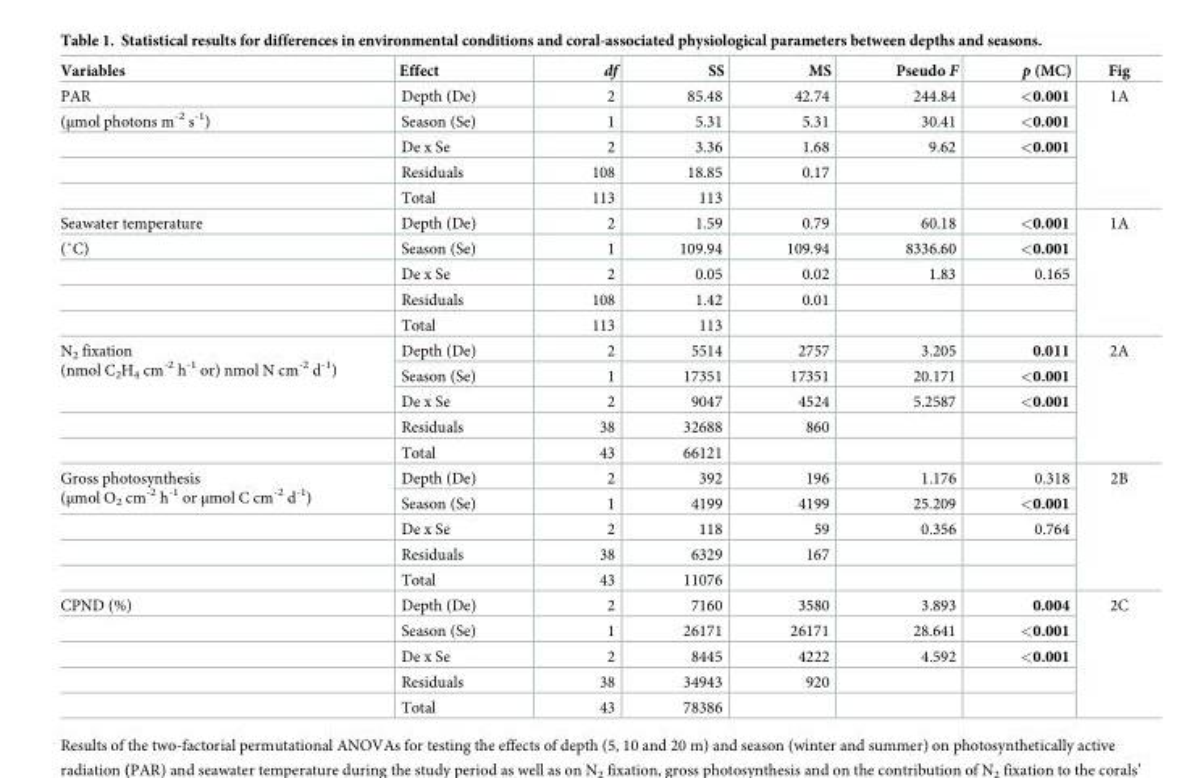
<table><thead><tr><td>Variables</td><td>Effect</td><td>df</td><td>SS</td><td>MS</td><td>Pseudo F</td><td>p (MC)</td><td>Fig</td></tr></thead><tbody><tr><td>PAR</td><td>Depth (De)</td><td>2</td><td>85.48</td><td>42.74</td><td>244.84</td><td>&lt;0.001</td><td rowspan="5">1A</td></tr><tr><td rowspan="4">(μmol photons m<sup>-2</sup> s<sup>-1</sup>)</td><td>Season (Se)</td><td>1</td><td>5.31</td><td>5.31</td><td>30.41</td><td>&lt;0.001</td></tr><tr><td>De x Se</td><td>2</td><td>3.36</td><td>1.68</td><td>9.62</td><td>&lt;0.001</td></tr><tr><td>Residuals</td><td>108</td><td>18.85</td><td>0.17</td><td></td><td></td></tr><tr><td>Total</td><td>113</td><td>113</td><td></td><td></td><td></td></tr><tr><td>Seawater temperature</td><td>Depth (De)</td><td>2</td><td>1.59</td><td>0.79</td><td>60.18</td><td>&lt;0.001</td><td rowspan="5">1A</td></tr><tr><td rowspan="4">(˚C)</td><td>Season (Se)</td><td>1</td><td>109.94</td><td>109.94</td><td>8336.60</td><td>&lt;0.001</td></tr><tr><td>De x Se</td><td>2</td><td>0.05</td><td>0.02</td><td>1.83</td><td>0.165</td></tr><tr><td>Residuals</td><td>108</td><td>1.42</td><td>0.01</td><td></td><td></td></tr><tr><td>Total</td><td>113</td><td>113</td><td></td><td></td><td></td></tr><tr><td rowspan="5">N<sub>2</sub> fixation (nmol C<sub>2</sub>H<sub>4</sub> cm<sup>-2</sup> h<sup>-1</sup> or) nmol N cm<sup>-2</sup> d<sup>-1</sup>)</td><td>Depth (De)</td><td>2</td><td>5514</td><td>2757</td><td>3.205</td><td>0.011</td><td rowspan="5">2A</td></tr><tr><td>Season (Se)</td><td>1</td><td>17351</td><td>17351</td><td>20.171</td><td>&lt;0.001</td></tr><tr><td>De x Se</td><td>2</td><td>9047</td><td>4524</td><td>5.2587</td><td>&lt;0.001</td></tr><tr><td>Residuals</td><td>38</td><td>32688</td><td>860</td><td></td><td></td></tr><tr><td>Total</td><td>43</td><td>66121</td><td></td><td></td><td></td></tr><tr><td rowspan="5">Gross photosynthesis (μmol O<sub>2</sub> cm<sup>-2</sup> h<sup>-1</sup> or μmol C cm<sup>-2</sup> d<sup>-1</sup>)</td><td>Depth (De)</td><td>2</td><td>392</td><td>196</td><td>1.176</td><td>0.318</td><td rowspan="5">2B</td></tr><tr><td>Season (Se)</td><td>1</td><td>4199</td><td>4199</td><td>25.209</td><td>&lt;0.001</td></tr><tr><td>De x Se</td><td>2</td><td>118</td><td>59</td><td>0.356</td><td>0.764</td></tr><tr><td>Residuals</td><td>38</td><td>6329</td><td>167</td><td></td><td></td></tr><tr><td>Total</td><td>43</td><td>11076</td><td></td><td></td><td></td></tr><tr><td rowspan="5">CPND (%)</td><td>Depth (De)</td><td>2</td><td>7160</td><td>3580</td><td>3.893</td><td>0.004</td><td rowspan="5">2C</td></tr><tr><td>Season (Se)</td><td>1</td><td>26171</td><td>26171</td><td>28.641</td><td>&lt;0.001</td></tr><tr><td>De x Se</td><td>2</td><td>8445</td><td>4222</td><td>4.592</td><td>&lt;0.001</td></tr><tr><td>Residuals</td><td>38</td><td>34943</td><td>920</td><td></td><td></td></tr><tr><td>Total</td><td>43</td><td>78386</td><td></td><td></td><td></td></tr></tbody></table>